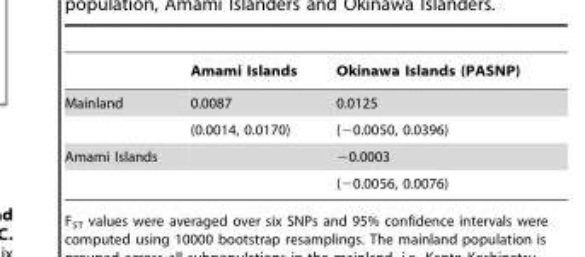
<table><thead><tr><td></td><td>Amami Islands</td><td>Okinawa Islands (PASNP)</td></tr></thead><tbody><tr><td rowspan="2">Mainland</td><td>0.0087</td><td>0.0125</td></tr><tr><td>(0.0014, 0.0170)</td><td>(−0.0050, 0.0396)</td></tr><tr><td rowspan="2">Amami Islands</td><td></td><td>−0.0003</td></tr><tr><td></td><td>(−0.0056, 0.0076)</td></tr></tbody></table>